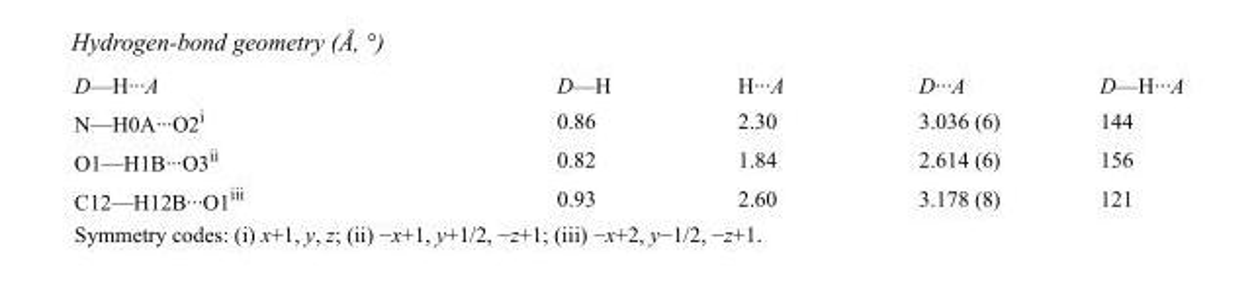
<table><tbody><tr><td>D—H···A</td><td>D—H</td><td>H···A</td><td>D···A</td><td>D—H···A</td></tr><tr><td>N—H0A···O2<sup>i</sup></td><td>0.86</td><td>2.30</td><td>3.036 (6)</td><td>144</td></tr><tr><td>O1—H1B···O3<sup>ii</sup></td><td>0.82</td><td>1.84</td><td>2.614 (6)</td><td>156</td></tr><tr><td>C12—H12B···O1<sup>iii</sup></td><td>0.93</td><td>2.60</td><td>3.178 (8)</td><td>121</td></tr></tbody></table>